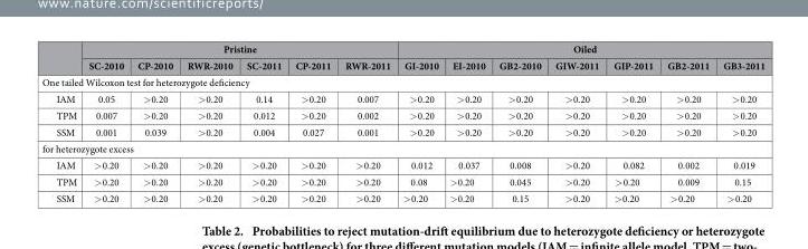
<table><thead><tr><td rowspan="2"></td><td colspan="6">Pristine</td><td colspan="7">Oiled</td></tr><tr><td>SC-2010</td><td>CP-2010</td><td>RWR-2010</td><td>SC-2011</td><td>CP-2011</td><td>RWR-2011</td><td>GI-2010</td><td>EI-2010</td><td>GB2-2010</td><td>GIW-2011</td><td>GIP-2011</td><td>GB2-2011</td><td>GB3-2011</td></tr></thead><tbody><tr><td colspan="14">One tailed Wilcoxon test for heterozygote deficiency</td></tr><tr><td>IAM</td><td>0.05</td><td>&gt; 0.20</td><td>&gt; 0.20</td><td>0.14</td><td>&gt; 0.20</td><td>0.007</td><td>&gt; 0.20</td><td>&gt; 0.20</td><td>&gt; 0.20</td><td>&gt; 0.20</td><td>&gt; 0.20</td><td>&gt; 0.20</td><td>&gt; 0.20</td></tr><tr><td>TPM</td><td>0.007</td><td>&gt; 0.20</td><td>&gt; 0.20</td><td>0.012</td><td>&gt; 0.20</td><td>0.002</td><td>&gt; 0.20</td><td>&gt; 0.20</td><td>&gt; 0.20</td><td>&gt; 0.20</td><td>&gt; 0.20</td><td>&gt; 0.20</td><td>&gt; 0.20</td></tr><tr><td>SSM</td><td>0.001</td><td>0.039</td><td>&gt; 0.20</td><td>0.004</td><td>0.027</td><td>0.001</td><td>&gt; 0.20</td><td>&gt; 0.20</td><td>&gt; 0.20</td><td>&gt; 0.20</td><td>&gt; 0.20</td><td>&gt; 0.20</td><td>&gt; 0.20</td></tr><tr><td colspan="14">for heterozygote excess</td></tr><tr><td>IAM</td><td>&gt; 0.20</td><td>&gt; 0.20</td><td>&gt; 0.20</td><td>&gt; 0.20</td><td>&gt; 0.20</td><td>&gt; 0.20</td><td>0.012</td><td>0.037</td><td>0.008</td><td>&gt; 0.20</td><td>0.082</td><td>0.002</td><td>0.019</td></tr><tr><td>TPM</td><td>&gt; 0.20</td><td>&gt; 0.20</td><td>&gt; 0.20</td><td>&gt; 0.20</td><td>&gt; 0.20</td><td>&gt; 0.20</td><td>0.08</td><td>&gt; 0.20</td><td>0.045</td><td>&gt; 0.20</td><td>&gt; 0.20</td><td>0.009</td><td>0.15</td></tr><tr><td>SSM</td><td>&gt; 0.20</td><td>&gt; 0.20</td><td>&gt; 0.20</td><td>&gt; 0.20</td><td>&gt; 0.20</td><td>&gt; 0.20</td><td>&gt; 0.20</td><td>&gt; 0.20</td><td>0.15</td><td>&gt; 0.20</td><td>&gt; 0.20</td><td>&gt; 0.20</td><td>&gt; 0.20</td></tr></tbody></table>